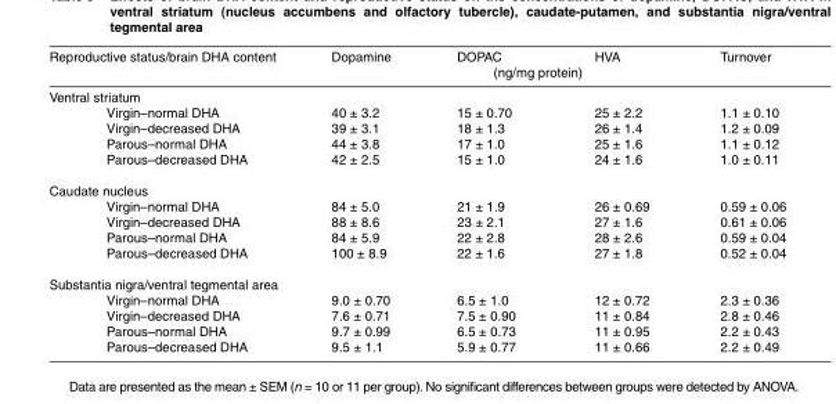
<table><thead><tr><td rowspan="2">Reproductive status/brain DHA content</td><td>Dopamine</td><td>DOPAC</td><td>HVA</td><td>Turnover</td></tr><tr><td colspan="4">(ng/mg protein)</td></tr></thead><tbody><tr><td colspan="5">Ventral striatum</td></tr><tr><td>Virgin–normal DHA</td><td>40 ± 3.2</td><td>15 ± 0.70</td><td>25 ± 2.2</td><td>1.1 ± 0.10</td></tr><tr><td>Virgin–decreased DHA</td><td>39 ± 3.1</td><td>18 ± 1.3</td><td>26 ± 1.4</td><td>1.2 ± 0.09</td></tr><tr><td>Parous–normal DHA</td><td>44 ± 3.8</td><td>17 ± 1.0</td><td>25 ± 1.6</td><td>1.1 ± 0.12</td></tr><tr><td>Parous–decreased DHA</td><td>42 ± 2.5</td><td>15 ± 1.0</td><td>24 ± 1.6</td><td>1.0 ± 0.11</td></tr><tr><td colspan="5">Caudate nucleus</td></tr><tr><td>Virgin–normal DHA</td><td>84 ± 5.0</td><td>21 ± 1.9</td><td>26 ± 0.69</td><td>0.59 ± 0.06</td></tr><tr><td>Virgin–decreased DHA</td><td>88 ± 8.6</td><td>23 ± 2.1</td><td>27 ± 1.6</td><td>0.61 ± 0.06</td></tr><tr><td>Parous–normal DHA</td><td>84 ± 5.9</td><td>22 ± 2.8</td><td>28 ± 2.6</td><td>0.59 ± 0.04</td></tr><tr><td>Parous–decreased DHA</td><td>100 ± 8.9</td><td>22 ± 1.6</td><td>27 ± 1.8</td><td>0.52 ± 0.04</td></tr><tr><td colspan="5">Substantia nigra/ventral tegmental area</td></tr><tr><td>Virgin–normal DHA</td><td>9.0 ± 0.70</td><td>6.5 ± 1.0</td><td>12 ± 0.72</td><td>2.3 ± 0.36</td></tr><tr><td>Virgin–decreased DHA</td><td>7.6 ± 0.71</td><td>7.5 ± 0.90</td><td>11 ± 0.84</td><td>2.8 ± 0.46</td></tr><tr><td>Parous–normal DHA</td><td>9.7 ± 0.99</td><td>6.5 ± 0.73</td><td>11 ± 0.95</td><td>2.2 ± 0.43</td></tr><tr><td>Parous–decreased DHA</td><td>9.5 ± 1.1</td><td>5.9 ± 0.77</td><td>11 ± 0.66</td><td>2.2 ± 0.49</td></tr></tbody></table>